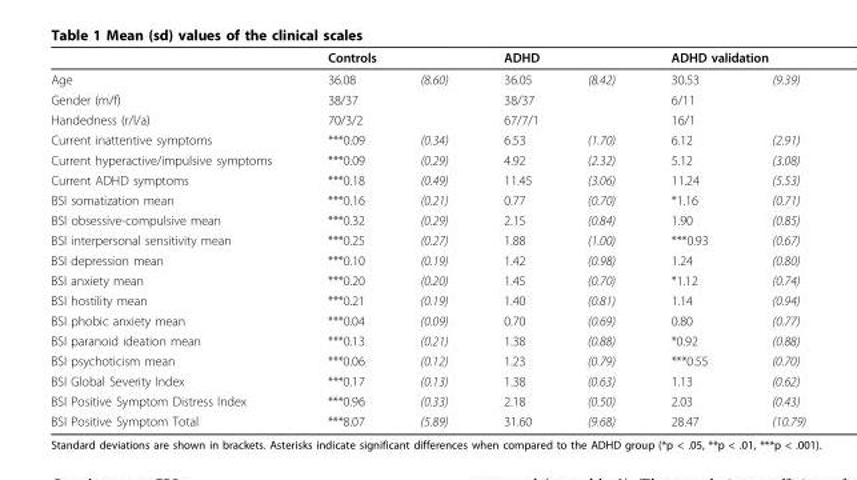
<table><thead><tr><td rowspan="2">Age</td><td colspan="2">Controls</td><td colspan="2">ADHD</td><td colspan="2">ADHD validation</td></tr><tr><td>36.08</td><td>(8.60)</td><td>36.05</td><td>(8.42)</td><td>30.53</td><td>(9.39)</td></tr></thead><tbody><tr><td>Gender (m/f)</td><td colspan="2">38/37</td><td colspan="2">38/37</td><td colspan="2">6/11</td></tr><tr><td>Handedness (r/l/a)</td><td colspan="2">70/3/2</td><td colspan="2">67/7/1</td><td colspan="2">16/1</td></tr><tr><td>Current inattentive symptoms</td><td>***0.09</td><td>(0.34)</td><td>6.53</td><td>(1.70)</td><td>6.12</td><td>(2.91)</td></tr><tr><td>Current hyperactive/impulsive symptoms</td><td>***0.09</td><td>(0.29)</td><td>4.92</td><td>(2.32)</td><td>5.12</td><td>(3.08)</td></tr><tr><td>Current ADHD symptoms</td><td>***0.18</td><td>(0.49)</td><td>11.45</td><td>(3.06)</td><td>11.24</td><td>(5.53)</td></tr><tr><td>BSI somatization mean</td><td>***0.16</td><td>(0.21)</td><td>0.77</td><td>(0.70)</td><td>*1.16</td><td>(0.71)</td></tr><tr><td>BSI obsessive-compulsive mean</td><td>***0.32</td><td>(0.29)</td><td>2.15</td><td>(0.84)</td><td>1.90</td><td>(0.85)</td></tr><tr><td>BSI interpersonal sensitivity mean</td><td>***0.25</td><td>(0.27)</td><td>1.88</td><td>(1.00)</td><td>***0.93</td><td>(0.67)</td></tr><tr><td>BSI depression mean</td><td>***0.10</td><td>(0.19)</td><td>1.42</td><td>(0.98)</td><td>1.24</td><td>(0.80)</td></tr><tr><td>BSI anxiety mean</td><td>***0.20</td><td>(0.20)</td><td>1.45</td><td>(0.70)</td><td>*1.12</td><td>(0.74)</td></tr><tr><td>BSI hostility mean</td><td>***0.21</td><td>(0.19)</td><td>1.40</td><td>(0.81)</td><td>1.14</td><td>(0.94)</td></tr><tr><td>BSI phobic anxiety mean</td><td>***0.04</td><td>(0.09)</td><td>0.70</td><td>(0.69)</td><td>0.80</td><td>(0.77)</td></tr><tr><td>BSI paranoid ideation mean</td><td>***0.13</td><td>(0.21)</td><td>1.38</td><td>(0.88)</td><td>*0.92</td><td>(0.88)</td></tr><tr><td>BSI psychoticism mean</td><td>***0.06</td><td>(0.12)</td><td>1.23</td><td>(0.79)</td><td>***0.55</td><td>(0.70)</td></tr><tr><td>BSI Global Severity Index</td><td>***0.17</td><td>(0.13)</td><td>1.38</td><td>(0.63)</td><td>1.13</td><td>(0.62)</td></tr><tr><td>BSI Positive Symptom Distress Index</td><td>***0.96</td><td>(0.33)</td><td>2.18</td><td>(0.50)</td><td>2.03</td><td>(0.43)</td></tr><tr><td>BSI Positive Symptom Total</td><td>***8.07</td><td>(5.89)</td><td>31.60</td><td>(9.68)</td><td>28.47</td><td>(10.79)</td></tr></tbody></table>